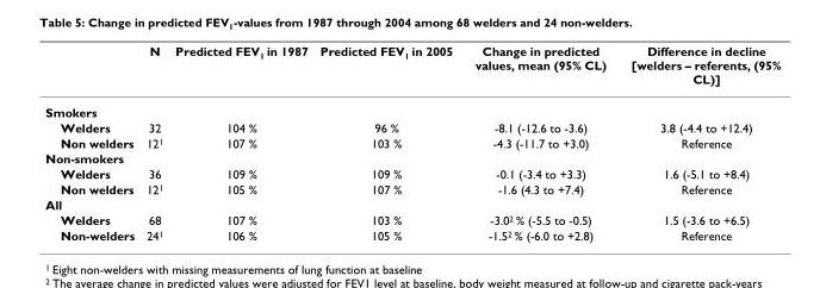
<table><thead><tr><td></td><td>N</td><td>Predicted FEV1 in 1987</td><td>Predicted FEV1 in 2005</td><td>Change in predicted values, mean (95% CL)</td><td>Difference in decline [welders – referents, (95% CL)]</td></tr></thead><tbody><tr><td colspan="6">Smokers</td></tr><tr><td>Welders</td><td>32</td><td>104 %</td><td>96 %</td><td>-8.1 (-12.6 to -3.6)</td><td>3.8 (-4.4 to +12.4)</td></tr><tr><td>Non welders</td><td>12<sup>1</sup></td><td>107 %</td><td>103 %</td><td>-4.3 (-11.7 to +3.0)</td><td>Reference</td></tr><tr><td colspan="6">Non-smokers</td></tr><tr><td>Welders</td><td>36</td><td>109 %</td><td>109 %</td><td>-0.1 (-3.4 to +3.3)</td><td>1.6 (-5.1 to +8.4)</td></tr><tr><td>Non welders</td><td>12<sup>1</sup></td><td>105 %</td><td>107 %</td><td>-1.6 (4.3 to +7.4)</td><td>Reference</td></tr><tr><td colspan="6">All</td></tr><tr><td>Welders</td><td>68</td><td>107 %</td><td>103 %</td><td>-3.0<sup>2</sup> % (-5.5 to -0.5)</td><td>1.5 (-3.6 to +6.5)</td></tr><tr><td>Non-welders</td><td>24<sup>1</sup></td><td>106 %</td><td>105 %</td><td>-1.5<sup>2</sup> % (-6.0 to +2.8)</td><td>Reference</td></tr></tbody></table>